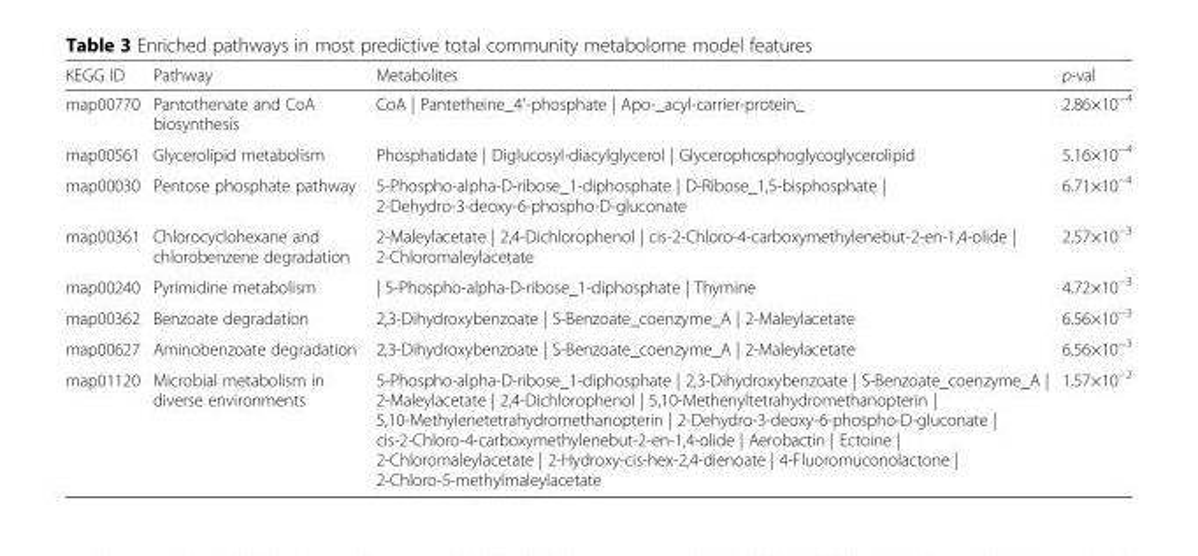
<table><thead><tr><td>KEGG ID</td><td>Pathway</td><td>Metabolites</td><td>p-val</td></tr></thead><tbody><tr><td>map00770</td><td>Pantothenate and CoA biosynthesis</td><td>CoA | Pantetheine_4′-phosphate | Apo-_acyl-carrier-protein_</td><td>2.86×10<sup>−4</sup></td></tr><tr><td>map00561</td><td>Glycerolipid metabolism</td><td>Phosphatidate | Diglucosyl-diacylglycerol | Glycerophosphoglycoglycerolipid</td><td>5.16×10<sup>−4</sup></td></tr><tr><td>map00030</td><td>Pentose phosphate pathway</td><td>5-Phospho-alpha-D-ribose_1-diphosphate | D-Ribose_1,5-bisphosphate | 2-Dehydro-3-deoxy-6-phospho-D-gluconate</td><td>6.71×10<sup>−4</sup></td></tr><tr><td>map00361</td><td>Chlorocyclohexane and chlorobenzene degradation</td><td>2-Maleylacetate | 2,4-Dichlorophenol | cis-2-Chloro-4-carboxymethylenebut-2-en-1,4-olide | 2-Chloromaleylacetate</td><td>2.57×10<sup>−3</sup></td></tr><tr><td>map00240</td><td>Pyrimidine metabolism</td><td>| 5-Phospho-alpha-D-ribose_1-diphosphate | Thymine</td><td>4.72×10<sup>−3</sup></td></tr><tr><td>map00362</td><td>Benzoate degradation</td><td>2,3-Dihydroxybenzoate | S-Benzoate_coenzyme_A | 2-Maleylacetate</td><td>6.56×10<sup>−3</sup></td></tr><tr><td>map00627</td><td>Aminobenzoate degradation</td><td>2,3-Dihydroxybenzoate | S-Benzoate_coenzyme_A | 2-Maleylacetate</td><td>6.56×10<sup>−3</sup></td></tr><tr><td>map01120</td><td>Microbial metabolism in diverse environments</td><td>5-Phospho-alpha-D-ribose_1-diphosphate | 2,3-Dihydroxybenzoate | S-Benzoate_coenzyme_A | 2-Maleylacetate | 2,4-Dichlorophenol | 5,10-Methenyltetrahydromethanopterin | 5,10-Methylenetetrahydromethanopterin | 2-Dehydro-3-deoxy-6-phospho-D-gluconate | cis-2-Chloro-4-carboxymethylenebut-2-en-1,4-olide | Aerobactin | Ectoine | 2-Chloromaleylacetate | 2-Hydroxy-cis-hex-2,4-dienoate | 4-Fluoromuconolactone | 2-Chloro-5-methylmaleylacetate</td><td>1.57×10<sup>−2</sup></td></tr></tbody></table>